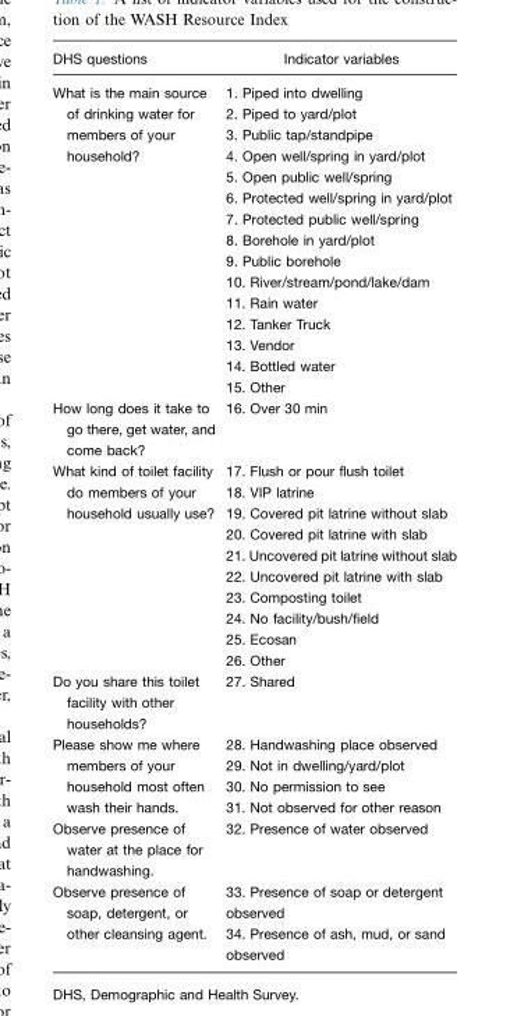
<table><thead><tr><td>DHS questions</td><td>Indicator variables</td></tr></thead><tbody><tr><td>What is the main source of drinking water for members of your household?</td><td>1. Piped into dwelling 2. Piped to yard/plot 3. Public tap/standpipe 4. Open well/spring in yard/plot 5. Open public well/spring 6. Protected well/spring in yard/plot 7. Protected public well/spring 8. Borehole in yard/plot 9. Public borehole 10. River/stream/pond/lake/dam 11. Rain water 12. Tanker Truck 13. Vendor 14. Bottled water 15. Other</td></tr><tr><td>How long does it take to go there, get water, and come back?</td><td>16. Over 30 min</td></tr><tr><td>What kind of toilet facility do members of your household usually use?</td><td>17. Flush or pour flush toilet 18. VIP latrine 19. Covered pit latrine without slab 20. Covered pit latrine with slab 21. Uncovered pit latrine without slab 22. Uncovered pit latrine with slab 23. Composting toilet 24. No facility/bush/field 25. Ecosan 26. Other</td></tr><tr><td>Do you share this toilet facility with other households?</td><td>27. Shared</td></tr><tr><td>Please show me where members of your household most often wash their hands.</td><td>28. Handwashing place observed 29. Not in dwelling/yard/plot 30. No permission to see 31. Not observed for other reason</td></tr><tr><td>Observe presence of water at the place for handwashing.</td><td>32. Presence of water observed</td></tr><tr><td>Observe presence of soap, detergent, or other cleansing agent.</td><td>33. Presence of soap or detergent observed 34. Presence of ash, mud, or sand observed</td></tr></tbody></table>